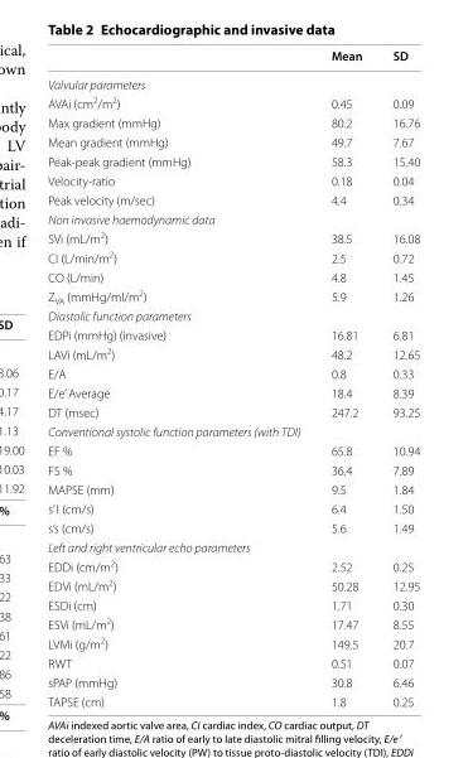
<table><thead><tr><td></td><td>Mean</td><td>SD</td></tr></thead><tbody><tr><td colspan="3">Valvular parameters</td></tr><tr><td>AVAi (cm<sup>2</sup>/m<sup>2</sup>)</td><td>0.45</td><td>0.09</td></tr><tr><td>Max gradient (mmHg)</td><td>80.2</td><td>16.76</td></tr><tr><td>Mean gradient (mmHg)</td><td>49.7</td><td>7.67</td></tr><tr><td>Peak-peak gradient (mmHg)</td><td>58.3</td><td>15.40</td></tr><tr><td>Velocity-ratio</td><td>0.18</td><td>0.04</td></tr><tr><td>Peak velocity (m/sec)</td><td>4.4</td><td>0.34</td></tr><tr><td colspan="3">Non invasive haemodynamic data</td></tr><tr><td>SVi (mL/m<sup>2</sup>)</td><td>38.5</td><td>16.08</td></tr><tr><td>CI (L/min/m<sup>2</sup>)</td><td>2.5</td><td>0.72</td></tr><tr><td>CO (L/min)</td><td>4.8</td><td>1.45</td></tr><tr><td>Z<sub>VA</sub> (mmHg/ml/m<sup>2</sup>)</td><td>5.9</td><td>1.26</td></tr><tr><td colspan="3">Diastolic function parameters</td></tr><tr><td>EDPi (mmHg) (invasive)</td><td>16.81</td><td>6.81</td></tr><tr><td>LAVi (mL/m<sup>2</sup>)</td><td>48.2</td><td>12.65</td></tr><tr><td>E/A</td><td>0.8</td><td>0.33</td></tr><tr><td>E/e’ Average</td><td>18.4</td><td>8.39</td></tr><tr><td>DT (msec)</td><td>247.2</td><td>93.25</td></tr><tr><td colspan="3">Conventional systolic function parameters (with TDI)</td></tr><tr><td>EF %</td><td>65.8</td><td>10.94</td></tr><tr><td>FS %</td><td>36.4</td><td>7.89</td></tr><tr><td>MAPSE (mm)</td><td>9.5</td><td>1.84</td></tr><tr><td>s’ l (cm/s)</td><td>6.4</td><td>1.50</td></tr><tr><td>s’s (cm/s)</td><td>5.6</td><td>1.49</td></tr><tr><td colspan="3">Left and right ventricular echo parameters</td></tr><tr><td>EDDi (cm/m<sup>2</sup>)</td><td>2.52</td><td>0.25</td></tr><tr><td>EDVi (mL/m<sup>2</sup>)</td><td>50.28</td><td>12.95</td></tr><tr><td>ESDi (cm)</td><td>1.71</td><td>0.30</td></tr><tr><td>ESVi (mL/m<sup>2</sup>)</td><td>17.47</td><td>8.55</td></tr><tr><td>LVMi (g/m<sup>2</sup>)</td><td>149.5</td><td>20.7</td></tr><tr><td>RWT</td><td>0.51</td><td>0.07</td></tr><tr><td>sPAP (mmHg)</td><td>30.8</td><td>6.46</td></tr><tr><td>TAPSE (cm)</td><td>1.8</td><td>0.25</td></tr></tbody></table>